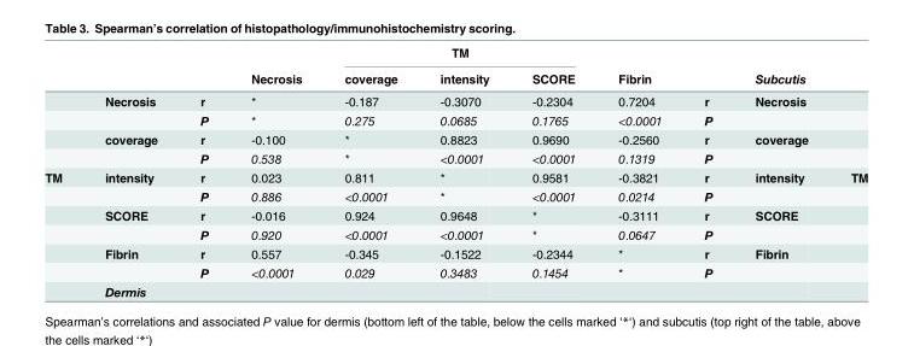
<table><thead><tr><td rowspan="2"></td><td rowspan="2"></td><td rowspan="2"></td><td rowspan="2">Necrosis</td><td colspan="3">TM</td><td rowspan="2">Fibrin</td><td rowspan="2"></td><td rowspan="2">Subcutis</td><td rowspan="2"></td></tr><tr><td>coverage</td><td>intensity</td><td>SCORE</td></tr></thead><tbody><tr><td></td><td>Necrosis</td><td>r</td><td>*</td><td>-0.187</td><td>-0.3070</td><td>-0.2304</td><td>0.7204</td><td>r</td><td>Necrosis</td><td></td></tr><tr><td></td><td></td><td>P</td><td>*</td><td>0.275</td><td>0.0685</td><td>0.1765</td><td>&lt;0.0001</td><td>P</td><td></td><td></td></tr><tr><td></td><td>coverage</td><td>r</td><td>-0.100</td><td>*</td><td>0.8823</td><td>0.9690</td><td>-0.2560</td><td>r</td><td>coverage</td><td></td></tr><tr><td></td><td></td><td>P</td><td>0.538</td><td>*</td><td>&lt;0.0001</td><td>&lt;0.0001</td><td>0.1319</td><td>P</td><td></td><td></td></tr><tr><td rowspan="7">TM</td><td>intensity</td><td>r</td><td>0.023</td><td>0.811</td><td>*</td><td>0.9581</td><td>-0.3821</td><td>r</td><td>intensity</td><td>TM</td></tr><tr><td></td><td>P</td><td>0.886</td><td>&lt;0.0001</td><td>*</td><td>&lt;0.0001</td><td>0.0214</td><td>P</td><td></td><td></td></tr><tr><td>SCORE</td><td>r</td><td>-0.016</td><td>0.924</td><td>0.9648</td><td>*</td><td>-0.3111</td><td>r</td><td>SCORE</td><td></td></tr><tr><td></td><td>P</td><td>0.920</td><td>&lt;0.0001</td><td>&lt;0.0001</td><td>*</td><td>0.0647</td><td>P</td><td></td><td></td></tr><tr><td>Fibrin</td><td>r</td><td>0.557</td><td>-0.345</td><td>-0.1522</td><td>-0.2344</td><td>*</td><td>r</td><td>Fibrin</td><td></td></tr><tr><td></td><td>P</td><td>&lt;0.0001</td><td>0.029</td><td>0.3483</td><td>0.1454</td><td>*</td><td>P</td><td></td><td></td></tr><tr><td>Dermis</td><td></td><td></td><td></td><td></td><td></td><td></td><td></td><td></td><td></td></tr></tbody></table>